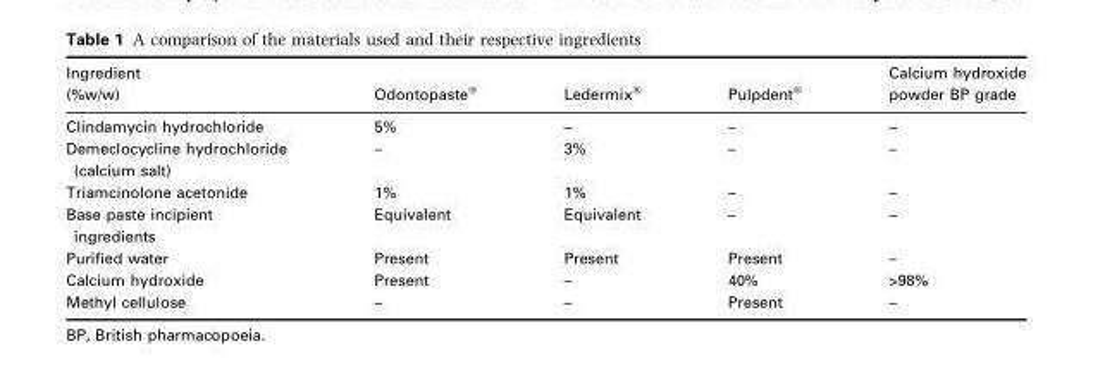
<table><thead><tr><td>Ingredient (%w/w)</td><td>Odontopaste®</td><td>Ledermix®</td><td>Pulpdent®</td><td>Calcium hydroxide powder BP grade</td></tr></thead><tbody><tr><td>Clindamycin hydrochloride</td><td>5%</td><td>–</td><td>–</td><td>–</td></tr><tr><td>Demeclocycline hydrochloride (calcium salt)</td><td>–</td><td>3%</td><td>–</td><td>–</td></tr><tr><td>Triamcinolone acetonide</td><td>1%</td><td>1%</td><td>–</td><td>–</td></tr><tr><td>Base paste incipient ingredients</td><td>Equivalent</td><td>Equivalent</td><td>–</td><td>–</td></tr><tr><td>Purified water</td><td>Present</td><td>Present</td><td>Present</td><td>–</td></tr><tr><td>Calcium hydroxide</td><td>Present</td><td>–</td><td>40%</td><td>&gt;98%</td></tr><tr><td>Methyl cellulose</td><td>–</td><td>–</td><td>Present</td><td>–</td></tr></tbody></table>